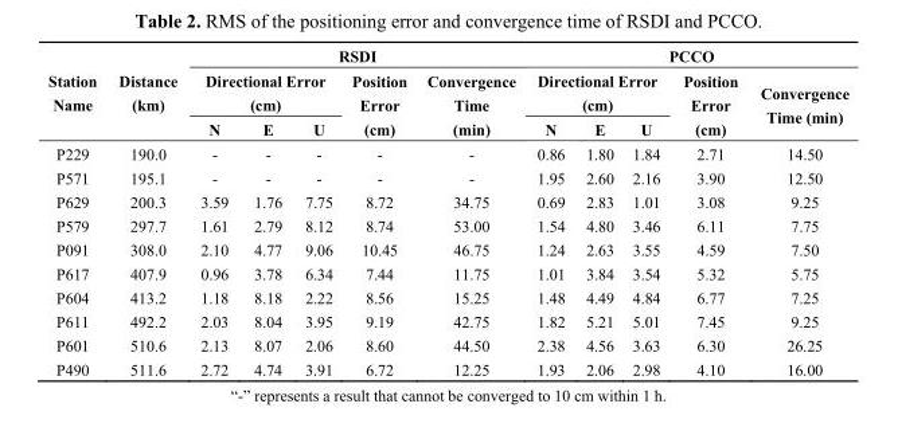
<table><thead><tr><td rowspan="3">Station Name</td><td rowspan="3">Distance (km)</td><td colspan="5">RSDI</td><td colspan="5">PCCO</td></tr><tr><td colspan="3">Directional Error (cm)</td><td rowspan="2">Position Error (cm)</td><td rowspan="2">Convergence Time (min)</td><td colspan="3">Directional Error (cm)</td><td rowspan="2">Position Error (cm)</td><td rowspan="2">Convergence Time (min)</td></tr><tr><td>N</td><td>E</td><td>U</td><td>N</td><td>E</td><td>U</td></tr></thead><tbody><tr><td>P229</td><td>190.0</td><td>-</td><td>-</td><td>-</td><td>-</td><td>-</td><td>0.86</td><td>1.80</td><td>1.84</td><td>2.71</td><td>14.50</td></tr><tr><td>P571</td><td>195.1</td><td>-</td><td>-</td><td>-</td><td>-</td><td>-</td><td>1.95</td><td>2.60</td><td>2.16</td><td>3.90</td><td>12.50</td></tr><tr><td>P629</td><td>200.3</td><td>3.59</td><td>1.76</td><td>7.75</td><td>8.72</td><td>34.75</td><td>0.69</td><td>2.83</td><td>1.01</td><td>3.08</td><td>9.25</td></tr><tr><td>P579</td><td>297.7</td><td>1.61</td><td>2.79</td><td>8.12</td><td>8.74</td><td>53.00</td><td>1.54</td><td>4.80</td><td>3.46</td><td>6.11</td><td>7.75</td></tr><tr><td>P091</td><td>308.0</td><td>2.10</td><td>4.77</td><td>9.06</td><td>10.45</td><td>46.75</td><td>1.24</td><td>2.63</td><td>3.55</td><td>4.59</td><td>7.50</td></tr><tr><td>P617</td><td>407.9</td><td>0.96</td><td>3.78</td><td>6.34</td><td>7.44</td><td>11.75</td><td>1.01</td><td>3.84</td><td>3.54</td><td>5.32</td><td>5.75</td></tr><tr><td>P604</td><td>413.2</td><td>1.18</td><td>8.18</td><td>2.22</td><td>8.56</td><td>15.25</td><td>1.48</td><td>4.49</td><td>4.84</td><td>6.77</td><td>7.25</td></tr><tr><td>P611</td><td>492.2</td><td>2.03</td><td>8.04</td><td>3.95</td><td>9.19</td><td>42.75</td><td>1.82</td><td>5.21</td><td>5.01</td><td>7.45</td><td>9.25</td></tr><tr><td>P601</td><td>510.6</td><td>2.13</td><td>8.07</td><td>2.06</td><td>8.60</td><td>44.50</td><td>2.38</td><td>4.56</td><td>3.63</td><td>6.30</td><td>26.25</td></tr><tr><td>P490</td><td>511.6</td><td>2.72</td><td>4.74</td><td>3.91</td><td>6.72</td><td>12.25</td><td>1.93</td><td>2.06</td><td>2.98</td><td>4.10</td><td>16.00</td></tr></tbody></table>